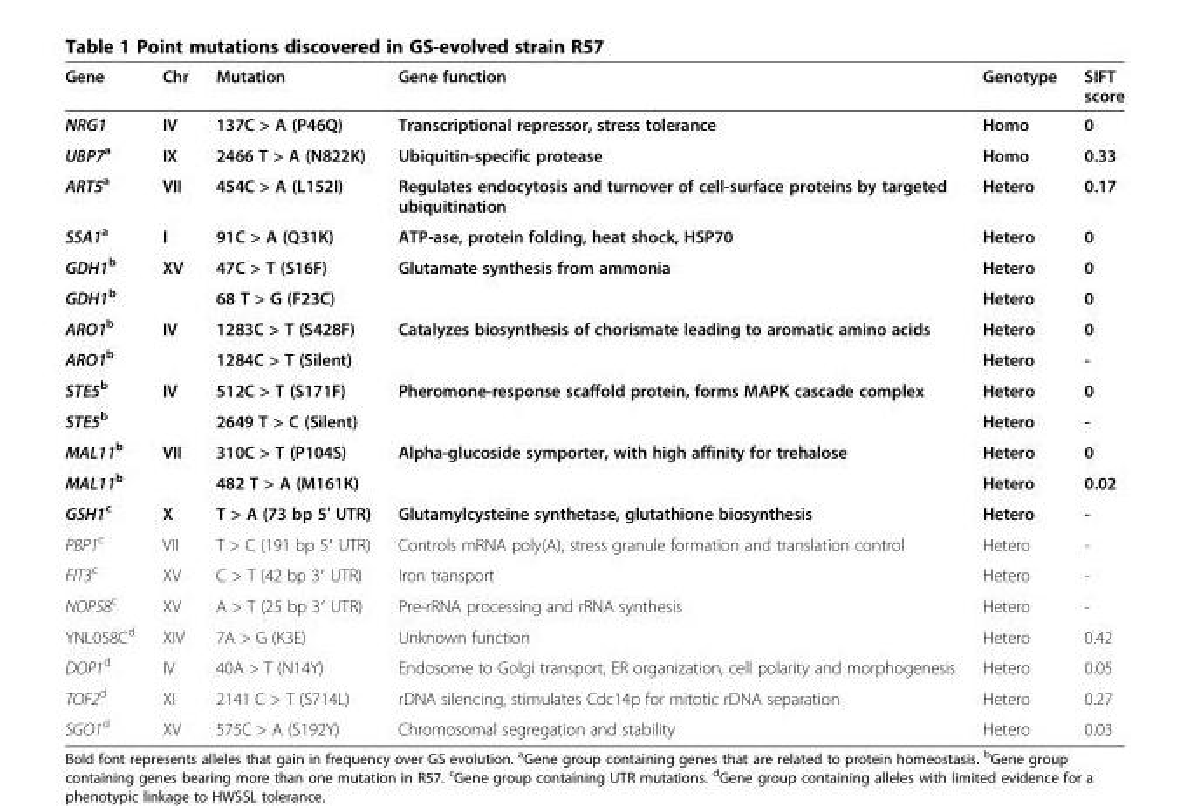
<table><thead><tr><td>Gene</td><td>Chr</td><td>Mutation</td><td>Gene function</td><td>Genotype</td><td>SIFT score</td></tr></thead><tbody><tr><td>NRG1</td><td>IV</td><td>137C &gt; A (P46Q)</td><td>Transcriptional repressor, stress tolerance</td><td>Homo</td><td>0</td></tr><tr><td>UBP7<sup>a</sup></td><td>IX</td><td>2466 T &gt; A (N822K)</td><td>Ubiquitin-specific protease</td><td>Homo</td><td>0.33</td></tr><tr><td>ART5<sup>a</sup></td><td>VII</td><td>454C &gt; A (L152I)</td><td>Regulates endocytosis and turnover of cell-surface proteins by targeted ubiquitination</td><td>Hetero</td><td>0.17</td></tr><tr><td>SSA1<sup>a</sup></td><td>I</td><td>91C &gt; A (Q31K)</td><td>ATP-ase, protein folding, heat shock, HSP70</td><td>Hetero</td><td>0</td></tr><tr><td>GDH1<sup>b</sup></td><td rowspan="2">XV</td><td>47C &gt; T (S16F)</td><td rowspan="2">Glutamate synthesis from ammonia</td><td>Hetero</td><td>0</td></tr><tr><td>GDH1<sup>b</sup></td><td>68 T &gt; G (F23C)</td><td>Hetero</td><td>0</td></tr><tr><td>ARO1<sup>b</sup></td><td rowspan="2">IV</td><td>1283C &gt; T (S428F)</td><td rowspan="2">Catalyzes biosynthesis of chorismate leading to aromatic amino acids</td><td>Hetero</td><td>0</td></tr><tr><td>ARO1<sup>b</sup></td><td>1284C &gt; T (Silent)</td><td>Hetero</td><td>-</td></tr><tr><td>STE5<sup>b</sup></td><td rowspan="2">IV</td><td>512C &gt; T (S171F)</td><td rowspan="2">Pheromone-response scaffold protein, forms MAPK cascade complex</td><td>Hetero</td><td>0</td></tr><tr><td>STE5<sup>b</sup></td><td>2649 T &gt; C (Silent)</td><td>Hetero</td><td>-</td></tr><tr><td>MAL11<sup>b</sup></td><td rowspan="2">VII</td><td>310C &gt; T (P104S)</td><td rowspan="2">Alpha-glucoside symporter, with high affinity for trehalose</td><td>Hetero</td><td>0</td></tr><tr><td>MAL11<sup>b</sup></td><td>482 T &gt; A (M161K)</td><td>Hetero</td><td>0.02</td></tr><tr><td>GSH1<sup>c</sup></td><td>X</td><td>T &gt; A (73 bp 5′ UTR)</td><td>Glutamylcysteine synthetase, glutathione biosynthesis</td><td>Hetero</td><td>-</td></tr><tr><td>PBP1<sup>c</sup></td><td>VII</td><td>T &gt; C (191 bp 5′ UTR)</td><td>Controls mRNA poly(A), stress granule formation and translation control</td><td>Hetero</td><td>-</td></tr><tr><td>FIT3<sup>c</sup></td><td>XV</td><td>C &gt; T (42 bp 3′ UTR)</td><td>Iron transport</td><td>Hetero</td><td>-</td></tr><tr><td>NOP58<sup>c</sup></td><td>XV</td><td>A &gt; T (25 bp 3′ UTR)</td><td>Pre-rRNA processing and rRNA synthesis</td><td>Hetero</td><td>-</td></tr><tr><td>YNL058C<sup>d</sup></td><td>XIV</td><td>7A &gt; G (K3E)</td><td>Unknown function</td><td>Hetero</td><td>0.42</td></tr><tr><td>DOP1<sup>d</sup></td><td>IV</td><td>40A &gt; T (N14Y)</td><td>Endosome to Golgi transport, ER organization, cell polarity and morphogenesis</td><td>Hetero</td><td>0.05</td></tr><tr><td>TOF2<sup>d</sup></td><td>XI</td><td>2141 C &gt; T (S714L)</td><td>rDNA silencing, stimulates Cdc14p for mitotic rDNA separation</td><td>Hetero</td><td>0.27</td></tr><tr><td>SGO1<sup>d</sup></td><td>XV</td><td>575C &gt; A (S192Y)</td><td>Chromosomal segregation and stability</td><td>Hetero</td><td>0.03</td></tr></tbody></table>